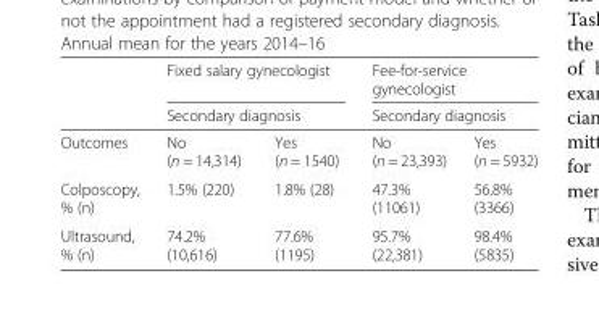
<table><thead><tr><td rowspan="3">Outcomes</td><td rowspan="2" colspan="2">Fixed salary gynecologist Secondary diagnosis</td><td rowspan="2" colspan="2">Fee-for-service gynecologist Secondary diagnosis</td></tr><tr></tr><tr><td>No (n = 14,314)</td><td>Yes (n = 1540)</td><td>No (n = 23,393)</td><td>Yes (n = 5932)</td></tr></thead><tbody><tr><td>Colposcopy, % (n)</td><td>1.5% (220)</td><td>1.8% (28)</td><td>47.3% (11061)</td><td>56.8% (3366)</td></tr><tr><td>Ultrasound, % (n)</td><td>74.2% (10,616)</td><td>77.6% (1195)</td><td>95.7% (22,381)</td><td>98.4% (5835)</td></tr></tbody></table>